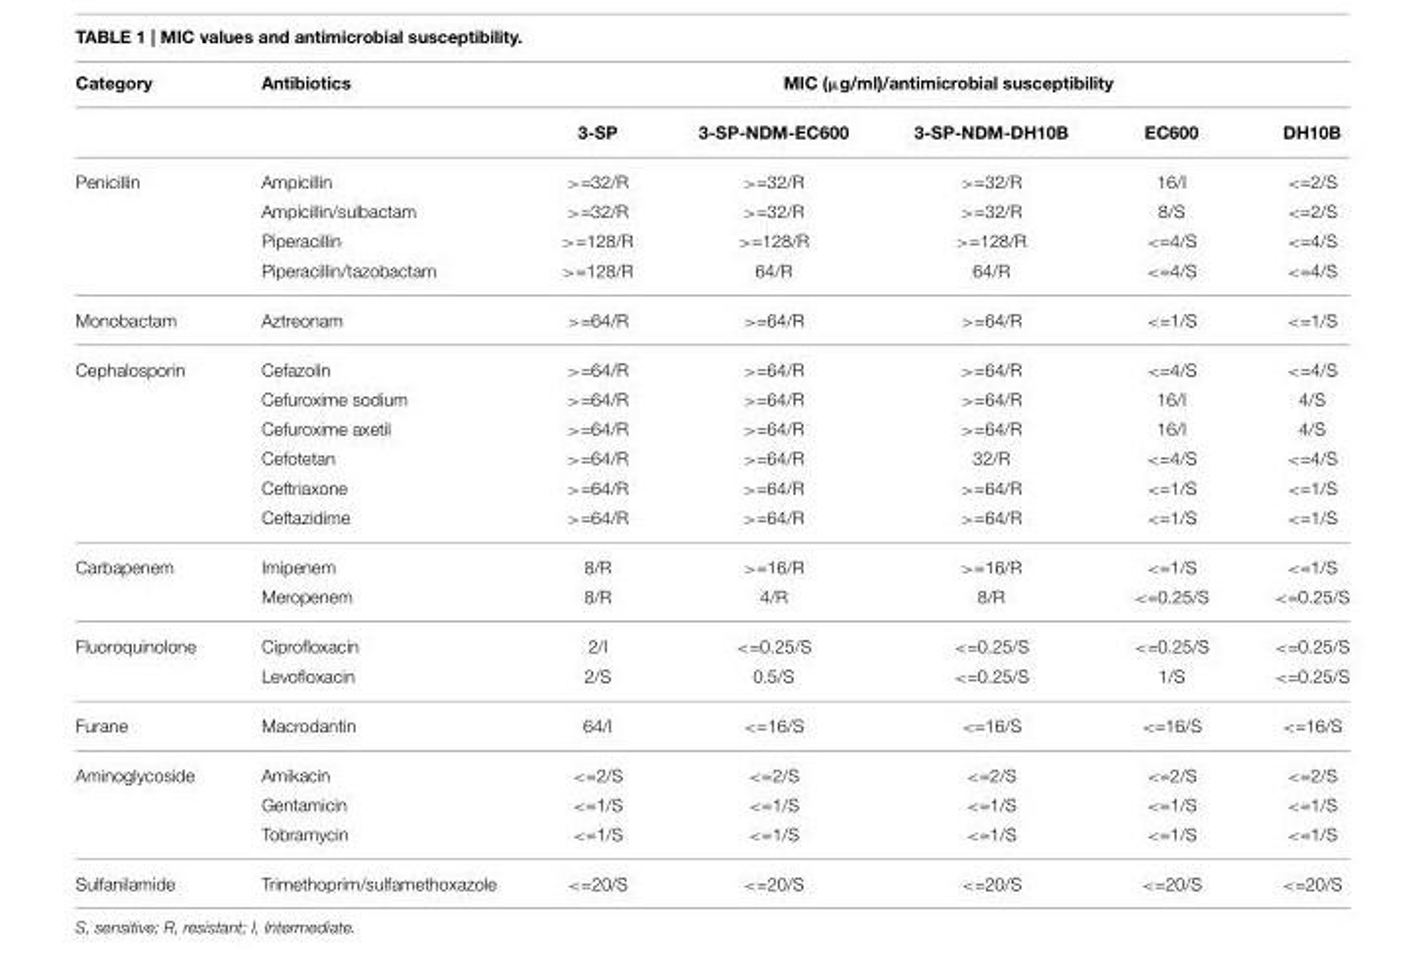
<table><thead><tr><td rowspan="2">Category</td><td rowspan="2">Antibiotics</td><td colspan="5">MIC (µg/ml)/antimicrobial susceptibility</td></tr><tr><td>3-SP</td><td>3-SP-NDM-EC600</td><td>3-SP-NDM-DH10B</td><td>EC600</td><td>DH10B</td></tr></thead><tbody><tr><td rowspan="4">Penicillin</td><td>Ampicillin</td><td>&gt;=32/R</td><td>&gt;=32/R</td><td>&gt;=32/R</td><td>16/I</td><td>&lt;=2/S</td></tr><tr><td>Ampicillin/sulbactam</td><td>&gt;=32/R</td><td>&gt;=32/R</td><td>&gt;=32/R</td><td>8/S</td><td>&lt;=2/S</td></tr><tr><td>Piperacillin</td><td>&gt;=128/R</td><td>&gt;=128/R</td><td>&gt;=128/R</td><td>&lt;=4/S</td><td>&lt;=4/S</td></tr><tr><td>Piperacillin/tazobactam</td><td>&gt;=128/R</td><td>64/R</td><td>64/R</td><td>&lt;=4/S</td><td>&lt;=4/S</td></tr><tr><td>Monobactam</td><td>Aztreonam</td><td>&gt;=64/R</td><td>&gt;=64/R</td><td>&gt;=64/R</td><td>&lt;=1/S</td><td>&lt;=1/S</td></tr><tr><td rowspan="6">Cephalosporin</td><td>Cefazolin</td><td>&gt;=64/R</td><td>&gt;=64/R</td><td>&gt;=64/R</td><td>&lt;=4/S</td><td>&lt;=4/S</td></tr><tr><td>Cefuroxime sodium</td><td>&gt;=64/R</td><td>&gt;=64/R</td><td>&gt;=64/R</td><td>16/I</td><td>4/S</td></tr><tr><td>Cefuroxime axetil</td><td>&gt;=64/R</td><td>&gt;=64/R</td><td>&gt;=64/R</td><td>16/I</td><td>4/S</td></tr><tr><td>Cefotetan</td><td>&gt;=64/R</td><td>&gt;=64/R</td><td>32/R</td><td>&lt;=4/S</td><td>&lt;=4/S</td></tr><tr><td>Ceftriaxone</td><td>&gt;=64/R</td><td>&gt;=64/R</td><td>&gt;=64/R</td><td>&lt;=1/S</td><td>&lt;=1/S</td></tr><tr><td>Ceftazidime</td><td>&gt;=64/R</td><td>&gt;=64/R</td><td>&gt;=64/R</td><td>&lt;=1/S</td><td>&lt;=1/S</td></tr><tr><td rowspan="2">Carbapenem</td><td>Imipenem</td><td>8/R</td><td>&gt;=16/R</td><td>&gt;=16/R</td><td>&lt;=1/S</td><td>&lt;=1/S</td></tr><tr><td>Meropenem</td><td>8/R</td><td>4/R</td><td>8/R</td><td>&lt;=0.25/S</td><td>&lt;=0.25/S</td></tr><tr><td rowspan="2">Fluoroquinolone</td><td>Ciprofloxacin</td><td>2/I</td><td>&lt;=0.25/S</td><td>&lt;=0.25/S</td><td>&lt;=0.25/S</td><td>&lt;=0.25/S</td></tr><tr><td>Levofloxacin</td><td>2/S</td><td>0.5/S</td><td>&lt;=0.25/S</td><td>1/S</td><td>&lt;=0.25/S</td></tr><tr><td>Furane</td><td>Macrodantin</td><td>64/I</td><td>&lt;=16/S</td><td>&lt;=16/S</td><td>&lt;=16/S</td><td>&lt;=16/S</td></tr><tr><td rowspan="3">Aminoglycoside</td><td>Amikacin</td><td>&lt;=2/S</td><td>&lt;=2/S</td><td>&lt;=2/S</td><td>&lt;=2/S</td><td>&lt;=2/S</td></tr><tr><td>Gentamicin</td><td>&lt;=1/S</td><td>&lt;=1/S</td><td>&lt;=1/S</td><td>&lt;=1/S</td><td>&lt;=1/S</td></tr><tr><td>Tobramycin</td><td>&lt;=1/S</td><td>&lt;=1/S</td><td>&lt;=1/S</td><td>&lt;=1/S</td><td>&lt;=1/S</td></tr><tr><td>Sulfanilamide</td><td>Trimethoprim/sulfamethoxazole</td><td>&lt;=20/S</td><td>&lt;=20/S</td><td>&lt;=20/S</td><td>&lt;=20/S</td><td>&lt;=20/S</td></tr></tbody></table>